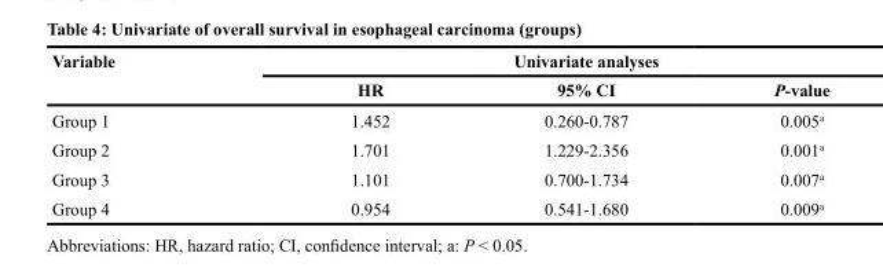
<table><thead><tr><td rowspan="2">Variable</td><td colspan="3">Univariate analyses</td></tr><tr><td>HR</td><td>95% CI</td><td>P-value</td></tr></thead><tbody><tr><td>Group 1</td><td>1.452</td><td>0.260-0.787</td><td>0.005<sup>a</sup></td></tr><tr><td>Group 2</td><td>1.701</td><td>1.229-2.356</td><td>0.001<sup>a</sup></td></tr><tr><td>Group 3</td><td>1.101</td><td>0.700-1.734</td><td>0.007<sup>a</sup></td></tr><tr><td>Group 4</td><td>0.954</td><td>0.541-1.680</td><td>0.009<sup>a</sup></td></tr></tbody></table>